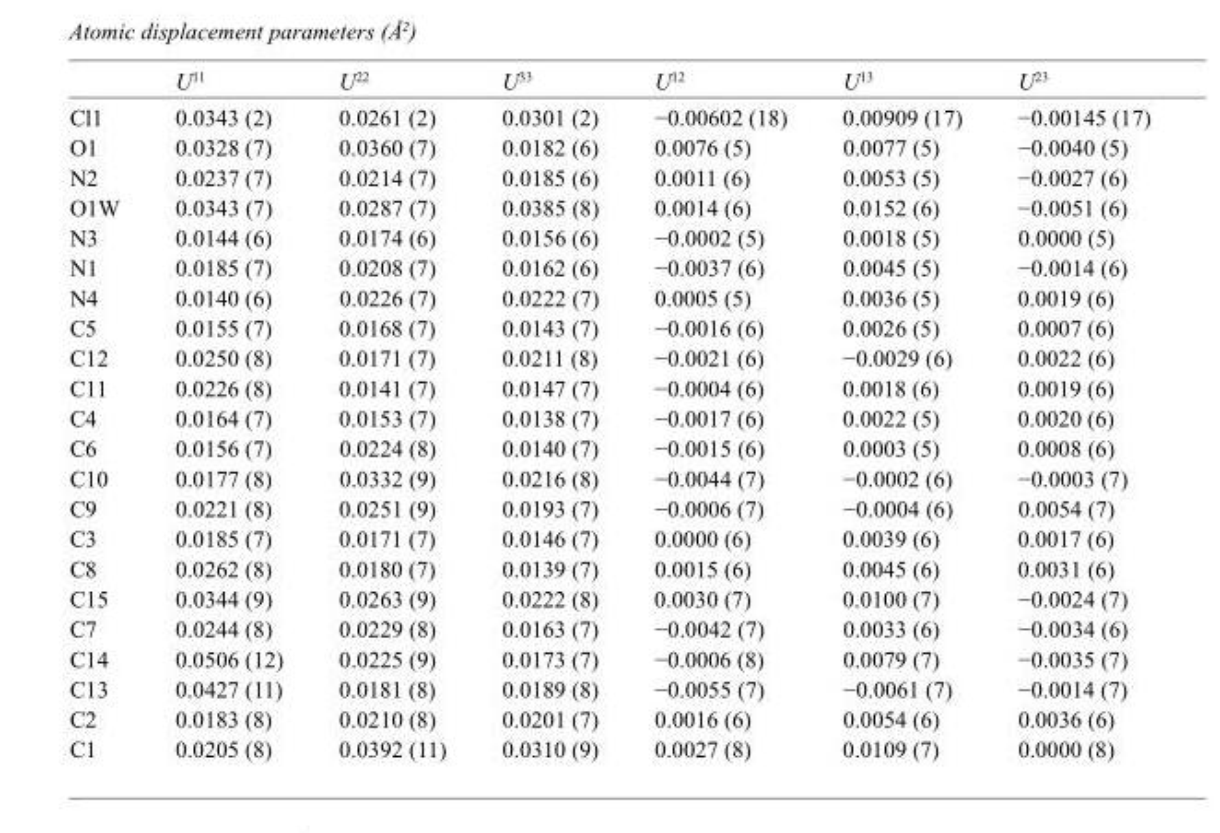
<table><thead><tr><td></td><td>U<sup>11</sup></td><td>U<sup>22</sup></td><td>U<sup>33</sup></td><td>U<sup>12</sup></td><td>U<sup>13</sup></td><td>U<sup>23</sup></td></tr></thead><tbody><tr><td>Cl1</td><td>0.0343 (2)</td><td>0.0261 (2)</td><td>0.0301 (2)</td><td>−0.00602 (18)</td><td>0.00909 (17)</td><td>−0.00145 (17)</td></tr><tr><td>O1</td><td>0.0328 (7)</td><td>0.0360 (7)</td><td>0.0182 (6)</td><td>0.0076 (5)</td><td>0.0077 (5)</td><td>−0.0040 (5)</td></tr><tr><td>N2</td><td>0.0237 (7)</td><td>0.0214 (7)</td><td>0.0185 (6)</td><td>0.0011 (6)</td><td>0.0053 (5)</td><td>−0.0027 (6)</td></tr><tr><td>O1W</td><td>0.0343 (7)</td><td>0.0287 (7)</td><td>0.0385 (8)</td><td>0.0014 (6)</td><td>0.0152 (6)</td><td>−0.0051 (6)</td></tr><tr><td>N3</td><td>0.0144 (6)</td><td>0.0174 (6)</td><td>0.0156 (6)</td><td>−0.0002 (5)</td><td>0.0018 (5)</td><td>0.0000 (5)</td></tr><tr><td>N1</td><td>0.0185 (7)</td><td>0.0208 (7)</td><td>0.0162 (6)</td><td>−0.0037 (6)</td><td>0.0045 (5)</td><td>−0.0014 (6)</td></tr><tr><td>N4</td><td>0.0140 (6)</td><td>0.0226 (7)</td><td>0.0222 (7)</td><td>0.0005 (5)</td><td>0.0036 (5)</td><td>0.0019 (6)</td></tr><tr><td>C5</td><td>0.0155 (7)</td><td>0.0168 (7)</td><td>0.0143 (7)</td><td>−0.0016 (6)</td><td>0.0026 (5)</td><td>0.0007 (6)</td></tr><tr><td>C12</td><td>0.0250 (8)</td><td>0.0171 (7)</td><td>0.0211 (8)</td><td>−0.0021 (6)</td><td>−0.0029 (6)</td><td>0.0022 (6)</td></tr><tr><td>C11</td><td>0.0226 (8)</td><td>0.0141 (7)</td><td>0.0147 (7)</td><td>−0.0004 (6)</td><td>0.0018 (6)</td><td>0.0019 (6)</td></tr><tr><td>C4</td><td>0.0164 (7)</td><td>0.0153 (7)</td><td>0.0138 (7)</td><td>−0.0017 (6)</td><td>0.0022 (5)</td><td>0.0020 (6)</td></tr><tr><td>C6</td><td>0.0156 (7)</td><td>0.0224 (8)</td><td>0.0140 (7)</td><td>−0.0015 (6)</td><td>0.0003 (5)</td><td>0.0008 (6)</td></tr><tr><td>C10</td><td>0.0177 (8)</td><td>0.0332 (9)</td><td>0.0216 (8)</td><td>−0.0044 (7)</td><td>−0.0002 (6)</td><td>−0.0003 (7)</td></tr><tr><td>C9</td><td>0.0221 (8)</td><td>0.0251 (9)</td><td>0.0193 (7)</td><td>−0.0006 (7)</td><td>−0.0004 (6)</td><td>0.0054 (7)</td></tr><tr><td>C3</td><td>0.0185 (7)</td><td>0.0171 (7)</td><td>0.0146 (7)</td><td>0.0000 (6)</td><td>0.0039 (6)</td><td>0.0017 (6)</td></tr><tr><td>C8</td><td>0.0262 (8)</td><td>0.0180 (7)</td><td>0.0139 (7)</td><td>0.0015 (6)</td><td>0.0045 (6)</td><td>0.0031 (6)</td></tr><tr><td>C15</td><td>0.0344 (9)</td><td>0.0263 (9)</td><td>0.0222 (8)</td><td>0.0030 (7)</td><td>0.0100 (7)</td><td>−0.0024 (7)</td></tr><tr><td>C7</td><td>0.0244 (8)</td><td>0.0229 (8)</td><td>0.0163 (7)</td><td>−0.0042 (7)</td><td>0.0033 (6)</td><td>−0.0034 (6)</td></tr><tr><td>C14</td><td>0.0506 (12)</td><td>0.0225 (9)</td><td>0.0173 (7)</td><td>−0.0006 (8)</td><td>0.0079 (7)</td><td>−0.0035 (7)</td></tr><tr><td>C13</td><td>0.0427 (11)</td><td>0.0181 (8)</td><td>0.0189 (8)</td><td>−0.0055 (7)</td><td>−0.0061 (7)</td><td>−0.0014 (7)</td></tr><tr><td>C2</td><td>0.0183 (8)</td><td>0.0210 (8)</td><td>0.0201 (7)</td><td>0.0016 (6)</td><td>0.0054 (6)</td><td>0.0036 (6)</td></tr><tr><td>C1</td><td>0.0205 (8)</td><td>0.0392 (11)</td><td>0.0310 (9)</td><td>0.0027 (8)</td><td>0.0109 (7)</td><td>0.0000 (8)</td></tr></tbody></table>